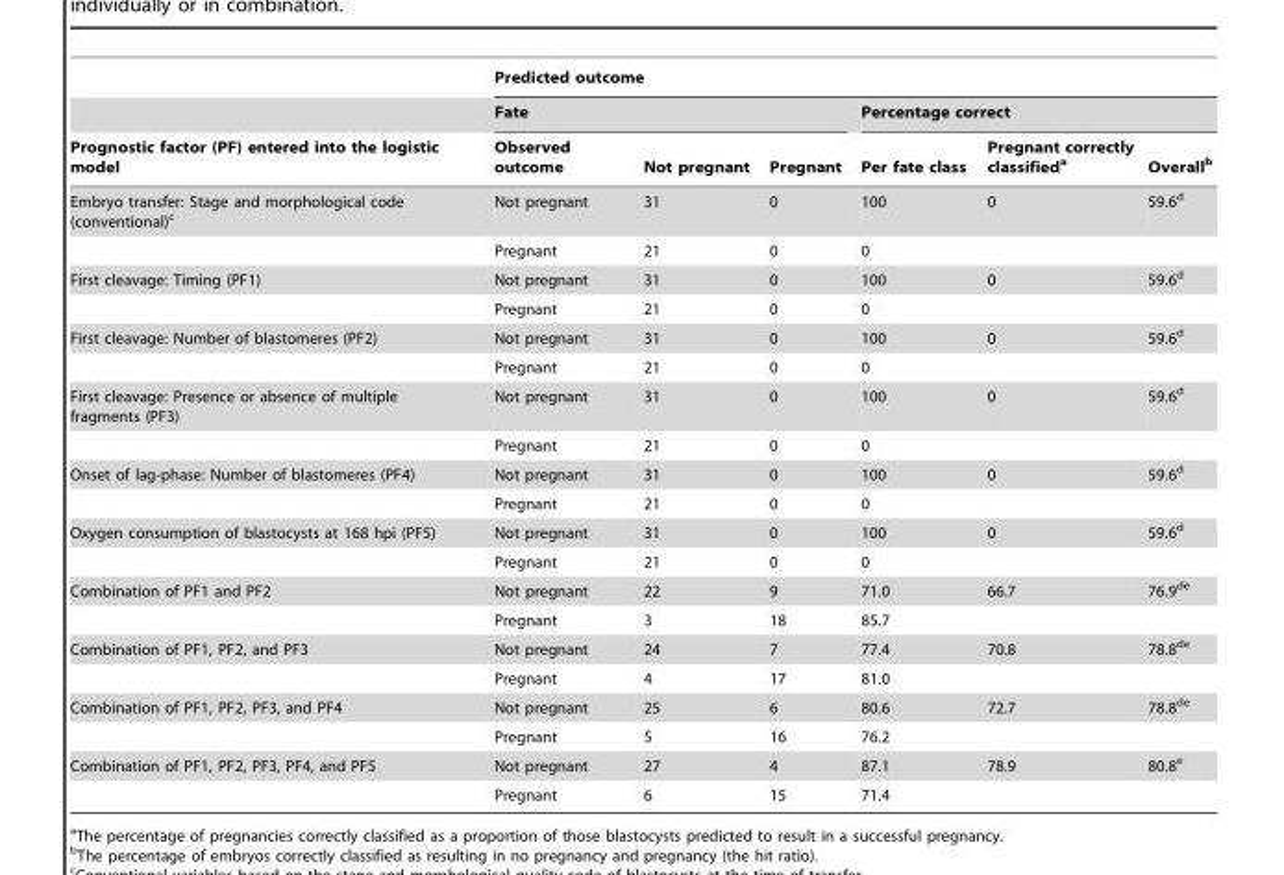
<table><thead><tr><td rowspan="3">Prognostic factor (PF) entered into the logistic model</td><td colspan="6">Predicted outcome</td></tr><tr><td colspan="3">Fate</td><td colspan="3">Percentage correct</td></tr><tr><td>Observed outcome</td><td>Not pregnant</td><td>Pregnant</td><td>Per fate class</td><td>Pregnant correctly classified<sup>a</sup></td><td>Overall<sup>b</sup></td></tr></thead><tbody><tr><td rowspan="2">Embryo transfer: Stage and morphological code (conventional)<sup>c</sup></td><td>Not pregnant</td><td>31</td><td>0</td><td>100</td><td>0</td><td>59.6<sup>d</sup></td></tr><tr><td>Pregnant</td><td>21</td><td>0</td><td>0</td><td></td><td></td></tr><tr><td rowspan="2">First cleavage: Timing (PF1)</td><td>Not pregnant</td><td>31</td><td>0</td><td>100</td><td>0</td><td>59.6<sup>d</sup></td></tr><tr><td>Pregnant</td><td>21</td><td>0</td><td>0</td><td></td><td></td></tr><tr><td rowspan="2">First cleavage: Number of blastomeres (PF2)</td><td>Not pregnant</td><td>31</td><td>0</td><td>100</td><td>0</td><td>59.6<sup>d</sup></td></tr><tr><td>Pregnant</td><td>21</td><td>0</td><td>0</td><td></td><td></td></tr><tr><td rowspan="2">First cleavage: Presence or absence of multiple fragments (PF3)</td><td>Not pregnant</td><td>31</td><td>0</td><td>100</td><td>0</td><td>59.6<sup>d</sup></td></tr><tr><td>Pregnant</td><td>21</td><td>0</td><td>0</td><td></td><td></td></tr><tr><td rowspan="2">Onset of lag-phase: Number of blastomeres (PF4)</td><td>Not pregnant</td><td>31</td><td>0</td><td>100</td><td>0</td><td>59.6<sup>d</sup></td></tr><tr><td>Pregnant</td><td>21</td><td>0</td><td>0</td><td></td><td></td></tr><tr><td rowspan="2">Oxygen consumption of blastocysts at 168 hpi (PF5)</td><td>Not pregnant</td><td>31</td><td>0</td><td>100</td><td>0</td><td>59.6<sup>d</sup></td></tr><tr><td>Pregnant</td><td>21</td><td>0</td><td>0</td><td></td><td></td></tr><tr><td rowspan="2">Combination of PF1 and PF2</td><td>Not pregnant</td><td>22</td><td>9</td><td>71.0</td><td>66.7</td><td>76.9<sup>de</sup></td></tr><tr><td>Pregnant</td><td>3</td><td>18</td><td>85.7</td><td></td><td></td></tr><tr><td rowspan="2">Combination of PF1, PF2, and PF3</td><td>Not pregnant</td><td>24</td><td>7</td><td>77.4</td><td>70.8</td><td>78.8<sup>de</sup></td></tr><tr><td>Pregnant</td><td>4</td><td>17</td><td>81.0</td><td></td><td></td></tr><tr><td rowspan="2">Combination of PF1, PF2, PF3, and PF4</td><td>Not pregnant</td><td>25</td><td>6</td><td>80.6</td><td>72.7</td><td>78.8<sup>de</sup></td></tr><tr><td>Pregnant</td><td>5</td><td>16</td><td>76.2</td><td></td><td></td></tr><tr><td rowspan="2">Combination of PF1, PF2, PF3, PF4, and PF5</td><td>Not pregnant</td><td>27</td><td>4</td><td>87.1</td><td>78.9</td><td>80.8<sup>e</sup></td></tr><tr><td>Pregnant</td><td>6</td><td>15</td><td>71.4</td><td></td><td></td></tr></tbody></table>